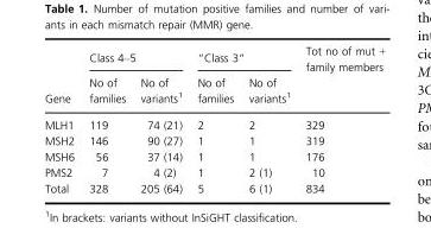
<table><thead><tr><td rowspan="2">Gene</td><td colspan="2">Class 4–5</td><td colspan="2">“Class 3”</td><td rowspan="2">Tot no of mut + family members</td></tr><tr><td>No of families</td><td>No of variants1</td><td>No of families</td><td>No of variants1</td></tr></thead><tbody><tr><td>MLH1</td><td>119</td><td>74 (21)</td><td>2</td><td>2</td><td>329</td></tr><tr><td>MSH2</td><td>146</td><td>90 (27)</td><td>1</td><td>1</td><td>319</td></tr><tr><td>MSH6</td><td>56</td><td>37 (14)</td><td>1</td><td>1</td><td>176</td></tr><tr><td>PMS2</td><td>7</td><td>4 (2)</td><td>1</td><td>2 (1)</td><td>10</td></tr><tr><td>Total</td><td>328</td><td>205 (64)</td><td>5</td><td>6 (1)</td><td>834</td></tr></tbody></table>